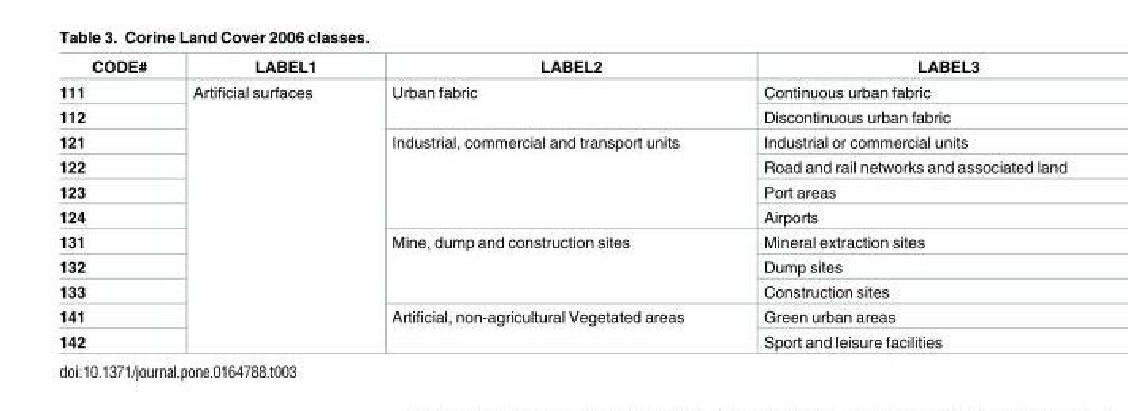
<table><thead><tr><td>CODE#</td><td>LABEL1</td><td>LABEL2</td><td>LABEL3</td></tr></thead><tbody><tr><td>111</td><td rowspan="11">Artificial surfaces</td><td rowspan="2">Urban fabric</td><td>Continuous urban fabric</td></tr><tr><td>112</td><td>Discontinuous urban fabric</td></tr><tr><td>121</td><td rowspan="4">Industrial, commercial and transport units</td><td>Industrial or commercial units</td></tr><tr><td>122</td><td>Road and rail networks and associated land</td></tr><tr><td>123</td><td>Port areas</td></tr><tr><td>124</td><td>Airports</td></tr><tr><td>131</td><td rowspan="3">Mine, dump and construction sites</td><td>Mineral extraction sites</td></tr><tr><td>132</td><td>Dump sites</td></tr><tr><td>133</td><td>Construction sites</td></tr><tr><td>141</td><td rowspan="2">Artificial, non-agricultural Vegetated areas</td><td>Green urban areas</td></tr><tr><td>142</td><td>Sport and leisure facilities</td></tr></tbody></table>